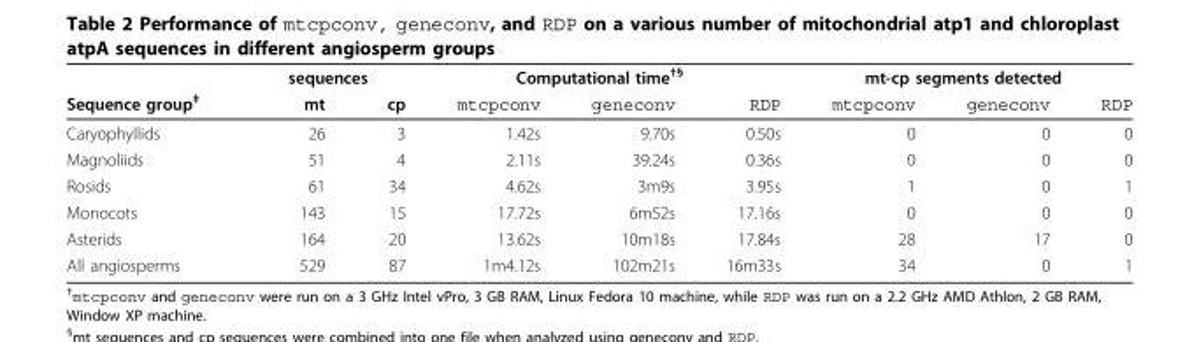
<table><thead><tr><td rowspan="2">Sequence group<sup>‡</sup></td><td colspan="2">sequences</td><td colspan="3">Computational time<sup>†§</sup></td><td colspan="3">mt-cp segments detected</td></tr><tr><td>mt</td><td>cp</td><td>mtcpconv</td><td>geneconv</td><td>RDP</td><td>mtcpconv</td><td>geneconv</td><td>RDP</td></tr></thead><tbody><tr><td>Caryophyllids</td><td>26</td><td>3</td><td>1.42s</td><td>9.70s</td><td>0.50s</td><td>0</td><td>0</td><td>0</td></tr><tr><td>Magnoliids</td><td>51</td><td>4</td><td>2.11s</td><td>39.24s</td><td>0.36s</td><td>0</td><td>0</td><td>0</td></tr><tr><td>Rosids</td><td>61</td><td>34</td><td>4.62s</td><td>3m9s</td><td>3.95s</td><td>1</td><td>0</td><td>1</td></tr><tr><td>Monocots</td><td>143</td><td>15</td><td>17.72s</td><td>6m52s</td><td>17.16s</td><td>0</td><td>0</td><td>0</td></tr><tr><td>Asterids</td><td>164</td><td>20</td><td>13.62s</td><td>10m18s</td><td>17.84s</td><td>28</td><td>17</td><td>0</td></tr><tr><td>All angiosperms</td><td>529</td><td>87</td><td>1m4.12s</td><td>102m21s</td><td>16m33s</td><td>34</td><td>0</td><td>1</td></tr></tbody></table>